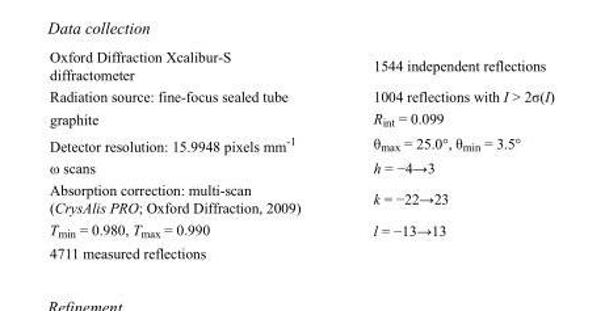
<table><tbody><tr><td>Oxford Diffraction Xcalibur-S diffractometer</td><td>1544 independent reflections</td></tr><tr><td>Radiation source: fine-focus sealed tube</td><td>1004 reflections with I &gt; 2σ(I)</td></tr><tr><td>graphite</td><td>R<sub>int</sub> = 0.099</td></tr><tr><td>Detector resolution: 15.9948 pixels mm<sup>-1</sup></td><td>θ<sub>max</sub> = 25.0°, θ<sub>min</sub> = 3.5°</td></tr><tr><td>ω scans</td><td>h = −4→3</td></tr><tr><td>Absorption correction: multi-scan (CrysAlis PRO; Oxford Diffraction, 2009)</td><td>k = −22→23</td></tr><tr><td>T<sub>min</sub> = 0.980, T<sub>max</sub> = 0.990</td><td>l = −13→13</td></tr><tr><td>4711 measured reflections</td><td></td></tr></tbody></table>